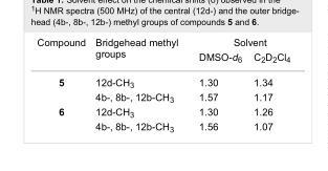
<table><tbody><tr><td rowspan="2">Compound</td><td rowspan="2">Bridgehead methyl groups</td><td colspan="2">Solvent</td></tr><tr><td>DMSO-d<sub>6</sub></td><td>C<sub>2</sub>D<sub>2</sub>Cl<sub>4</sub></td></tr><tr><td rowspan="2">5</td><td>12d-CH<sub>3</sub></td><td>1.30</td><td>1.34</td></tr><tr><td>4b-, 8b-, 12b-CH<sub>3</sub></td><td>1.57</td><td>1.17</td></tr><tr><td rowspan="2">6</td><td>12d-CH<sub>3</sub></td><td>1.30</td><td>1.26</td></tr><tr><td>4b-, 8b-, 12b-CH<sub>3</sub></td><td>1.56</td><td>1.07</td></tr></tbody></table>